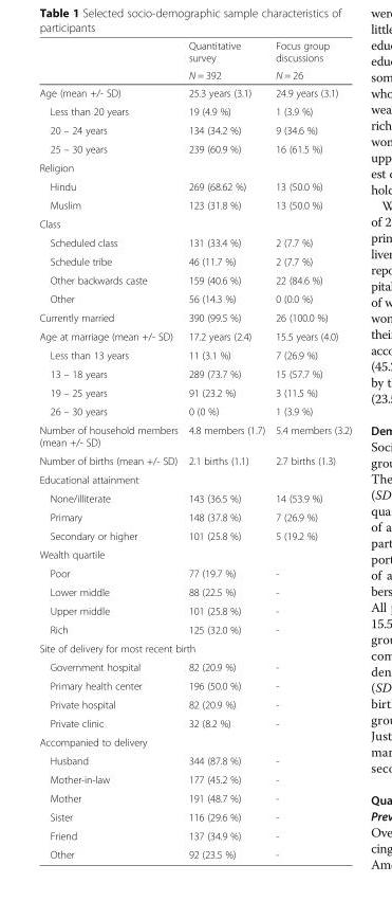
<table><thead><tr><td rowspan="2"></td><td rowspan="2">Quantitative survey N = 392</td><td rowspan="2">Focus group discussions N = 26</td></tr><tr></tr></thead><tbody><tr><td>Age (mean +/- SD)</td><td>25.3 years (3.1)</td><td>24.9 years (3.1)</td></tr><tr><td>Less than 20 years</td><td>19 (4.9 %)</td><td>1 (3.9 %)</td></tr><tr><td>20 – 24 years</td><td>134 (34.2 %)</td><td>9 (34.6 %)</td></tr><tr><td>25 – 30 years</td><td>239 (60.9 %)</td><td>16 (61.5 %)</td></tr><tr><td colspan="3">Religion</td></tr><tr><td>Hindu</td><td>269 (68.62 %)</td><td>13 (50.0 %)</td></tr><tr><td>Muslim</td><td>123 (31.8 %)</td><td>13 (50.0 %)</td></tr><tr><td colspan="3">Class</td></tr><tr><td>Scheduled class</td><td>131 (33.4 %)</td><td>2 (7.7 %)</td></tr><tr><td>Schedule tribe</td><td>46 (11.7 %)</td><td>2 (7.7 %)</td></tr><tr><td>Other backwards caste</td><td>159 (40.6 %)</td><td>22 (84.6 %)</td></tr><tr><td>Other</td><td>56 (14.3 %)</td><td>0 (0.0 %)</td></tr><tr><td>Currently married</td><td>390 (99.5 %)</td><td>26 (100.0 %)</td></tr><tr><td>Age at marriage (mean +/- SD)</td><td>17.2 years (2.4)</td><td>15.5 years (4.0)</td></tr><tr><td>Less than 13 years</td><td>11 (3.1 %)</td><td>7 (26.9 %)</td></tr><tr><td>13 – 18 years</td><td>289 (73.7 %)</td><td>15 (57.7 %)</td></tr><tr><td>19 – 25 years</td><td>91 (23.2 %)</td><td>3 (11.5 %)</td></tr><tr><td>26 – 30 years</td><td>0 (0 %)</td><td>1 (3.9 %)</td></tr><tr><td>Number of household members (mean +/- SD)</td><td>4.8 members (1.7)</td><td>5.4 members (3.2)</td></tr><tr><td>Number of births (mean +/- SD)</td><td>2.1 births (1.1)</td><td>2.7 births (1.3)</td></tr><tr><td colspan="3">Educational attainment</td></tr><tr><td>None/illiterate</td><td>143 (36.5 %)</td><td>14 (53.9 %)</td></tr><tr><td>Primary</td><td>148 (37.8 %)</td><td>7 (26.9 %)</td></tr><tr><td>Secondary or higher</td><td>101 (25.8 %)</td><td>5 (19.2 %)</td></tr><tr><td colspan="3">Wealth quartile</td></tr><tr><td>Poor</td><td>77 (19.7 %)</td><td>-</td></tr><tr><td>Lower middle</td><td>88 (22.5 %)</td><td>-</td></tr><tr><td>Upper middle</td><td>101 (25.8 %)</td><td>-</td></tr><tr><td>Rich</td><td>125 (32.0 %)</td><td>-</td></tr><tr><td colspan="3">Site of delivery for most recent birth</td></tr><tr><td>Government hospital</td><td>82 (20.9 %)</td><td>-</td></tr><tr><td>Primary health center</td><td>196 (50.0 %)</td><td>-</td></tr><tr><td>Private hospital</td><td>82 (20.9 %)</td><td>-</td></tr><tr><td>Private clinic</td><td>32 (8.2 %)</td><td>-</td></tr><tr><td colspan="3">Accompanied to delivery</td></tr><tr><td>Husband</td><td>344 (87.8 %)</td><td>-</td></tr><tr><td>Mother-in-law</td><td>177 (45.2 %)</td><td>-</td></tr><tr><td>Mother</td><td>191 (48.7 %)</td><td>-</td></tr><tr><td>Sister</td><td>116 (29.6 %)</td><td>-</td></tr><tr><td>Friend</td><td>137 (34.9 %)</td><td>-</td></tr><tr><td>Other</td><td>92 (23.5 %)</td><td>-</td></tr></tbody></table>